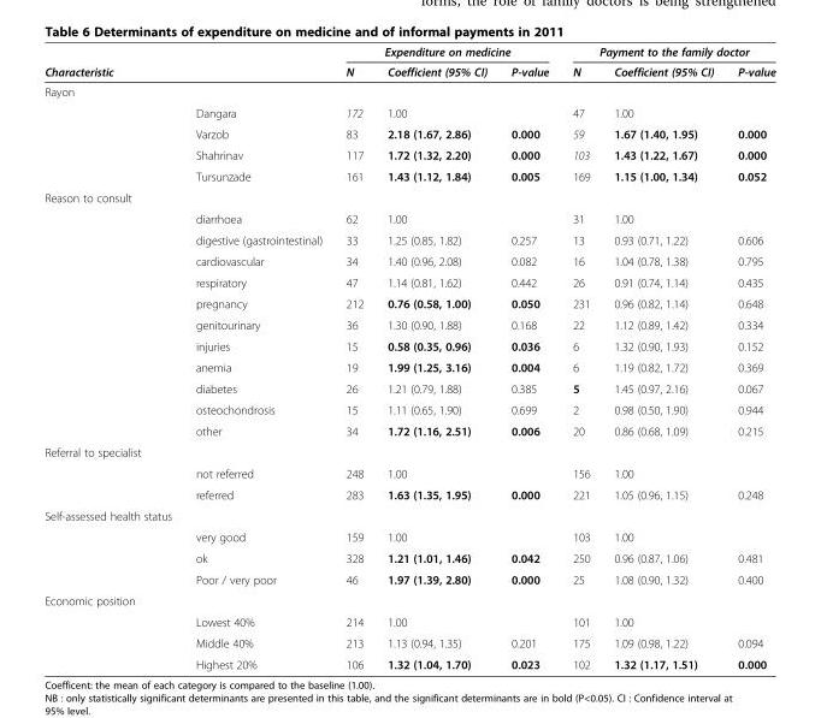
<table><thead><tr><td rowspan="2">Characteristic</td><td rowspan="2"></td><td colspan="3">Expenditure on medicine</td><td colspan="3">Payment to the family doctor</td></tr><tr><td>N</td><td>Coefficient (95% CI)</td><td>P-value</td><td>N</td><td>Coefficient (95% CI)</td><td>P-value</td></tr></thead><tbody><tr><td colspan="8">Rayon</td></tr><tr><td></td><td>Dangara</td><td>172</td><td>1.00</td><td></td><td>47</td><td>1.00</td><td></td></tr><tr><td></td><td>Varzob</td><td>83</td><td>2.18 (1.67, 2.86)</td><td>0.000</td><td>59</td><td>1.67 (1.40, 1.95)</td><td>0.000</td></tr><tr><td></td><td>Shahrinav</td><td>117</td><td>1.72 (1.32, 2.20)</td><td>0.000</td><td>103</td><td>1.43 (1.22, 1.67)</td><td>0.000</td></tr><tr><td></td><td>Tursunzade</td><td>161</td><td>1.43 (1.12, 1.84)</td><td>0.005</td><td>169</td><td>1.15 (1.00, 1.34)</td><td>0.052</td></tr><tr><td colspan="8">Reason to consult</td></tr><tr><td></td><td>diarrhoea</td><td>62</td><td>1.00</td><td></td><td>31</td><td>1.00</td><td></td></tr><tr><td></td><td>digestive (gastrointestinal)</td><td>33</td><td>1.25 (0.85, 1.82)</td><td>0.257</td><td>13</td><td>0.93 (0.71, 1.22)</td><td>0.606</td></tr><tr><td></td><td>cardiovascular</td><td>34</td><td>1.40 (0.96, 2.08)</td><td>0.082</td><td>16</td><td>1.04 (0.78, 1.38)</td><td>0.795</td></tr><tr><td></td><td>respiratory</td><td>47</td><td>1.14 (0.81, 1.62)</td><td>0.442</td><td>26</td><td>0.91 (0.74, 1.14)</td><td>0.435</td></tr><tr><td></td><td>pregnancy</td><td>212</td><td>0.76 (0.58, 1.00)</td><td>0.050</td><td>231</td><td>0.96 (0.82, 1.14)</td><td>0.648</td></tr><tr><td></td><td>genitourinary</td><td>36</td><td>1.30 (0.90, 1.88)</td><td>0.168</td><td>22</td><td>1.12 (0.89, 1.42)</td><td>0.334</td></tr><tr><td></td><td>injuries</td><td>15</td><td>0.58 (0.35, 0.96)</td><td>0.036</td><td>6</td><td>1.32 (0.90, 1.93)</td><td>0.152</td></tr><tr><td></td><td>anemia</td><td>19</td><td>1.99 (1.25, 3.16)</td><td>0.004</td><td>6</td><td>1.19 (0.82, 1.72)</td><td>0.369</td></tr><tr><td></td><td>diabetes</td><td>26</td><td>1.21 (0.79, 1.88)</td><td>0.385</td><td>5</td><td>1.45 (0.97, 2.16)</td><td>0.067</td></tr><tr><td></td><td>osteochondrosis</td><td>15</td><td>1.11 (0.65, 1.90)</td><td>0.699</td><td>2</td><td>0.98 (0.50, 1.90)</td><td>0.944</td></tr><tr><td></td><td>other</td><td>34</td><td>1.72 (1.16, 2.51)</td><td>0.006</td><td>20</td><td>0.86 (0.68, 1.09)</td><td>0.215</td></tr><tr><td colspan="8">Referral to specialist</td></tr><tr><td></td><td>not referred</td><td>248</td><td>1.00</td><td></td><td>156</td><td>1.00</td><td></td></tr><tr><td></td><td>referred</td><td>283</td><td>1.63 (1.35, 1.95)</td><td>0.000</td><td>221</td><td>1.05 (0.96, 1.15)</td><td>0.248</td></tr><tr><td colspan="8">Self-assessed health status</td></tr><tr><td></td><td>very good</td><td>159</td><td>1.00</td><td></td><td>103</td><td>1.00</td><td></td></tr><tr><td></td><td>ok</td><td>328</td><td>1.21 (1.01, 1.46)</td><td>0.042</td><td>250</td><td>0.96 (0.87, 1.06)</td><td>0.481</td></tr><tr><td></td><td>Poor / very poor</td><td>46</td><td>1.97 (1.39, 2.80)</td><td>0.000</td><td>25</td><td>1.08 (0.90, 1.32)</td><td>0.400</td></tr><tr><td colspan="8">Economic position</td></tr><tr><td></td><td>Lowest 40%</td><td>214</td><td>1.00</td><td></td><td>101</td><td>1.00</td><td></td></tr><tr><td></td><td>Middle 40%</td><td>213</td><td>1.13 (0.94, 1.35)</td><td>0.201</td><td>175</td><td>1.09 (0.98, 1.22)</td><td>0.094</td></tr><tr><td></td><td>Highest 20%</td><td>106</td><td>1.32 (1.04, 1.70)</td><td>0.023</td><td>102</td><td>1.32 (1.17, 1.51)</td><td>0.000</td></tr></tbody></table>